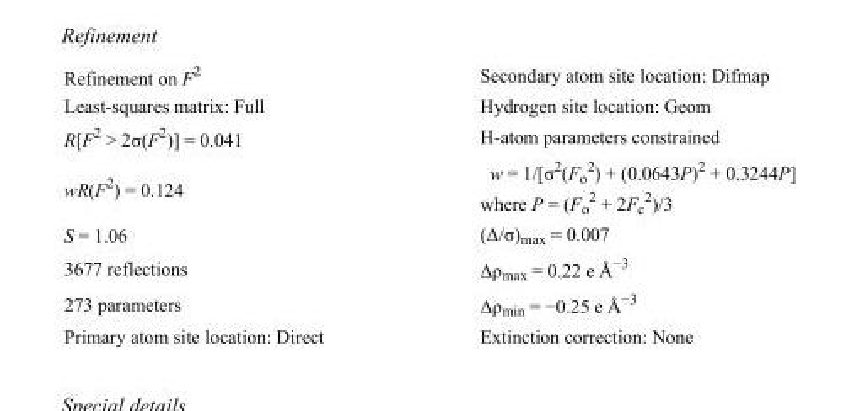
<table><tbody><tr><td>Refinement on F<sup>2</sup></td><td>Secondary atom site location: Difmap</td></tr><tr><td>Least-squares matrix: Full</td><td>Hydrogen site location: Geom</td></tr><tr><td>R[F<sup>2</sup> &gt; 2σ(F<sup>2</sup>)] = 0.041</td><td>H-atom parameters constrained</td></tr><tr><td>wR(F<sup>2</sup>) = 0.124</td><td>w = 1/[σ<sup>2</sup>(F<sub>o</sub> <sup>2</sup>) + (0.0643P)<sup>2</sup> + 0.3244P] where P = (F<sub>o</sub> <sup>2</sup> + 2F<sub>c</sub> <sup>2</sup>)/3</td></tr><tr><td>S = 1.06</td><td>(Δ/σ)<sub>max</sub> = 0.007</td></tr><tr><td>3677 reflections</td><td>Δρ<sub>max</sub> = 0.22 e Å<sup>−3</sup></td></tr><tr><td>273 parameters</td><td>Δρ<sub>min</sub> = −0.25 e Å<sup>−3</sup></td></tr><tr><td>Primary atom site location: Direct</td><td>Extinction correction: None</td></tr></tbody></table>